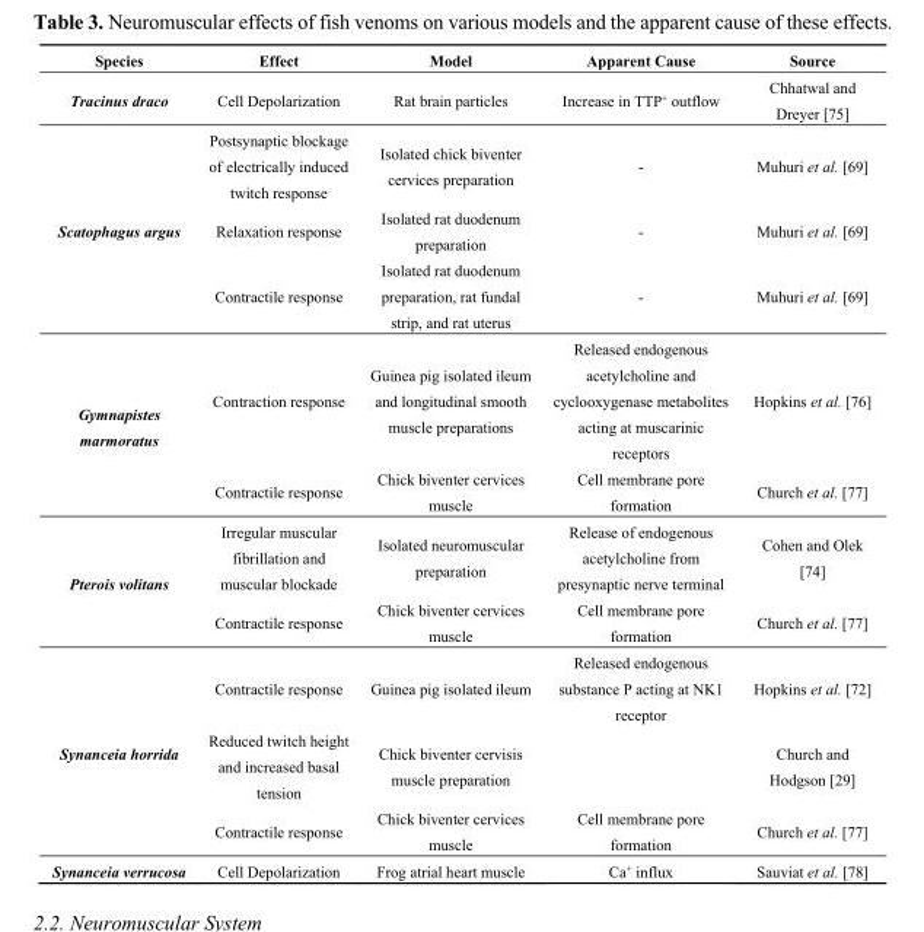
<table><thead><tr><td>Species</td><td>Effect</td><td>Model</td><td>Apparent Cause</td><td>Source</td></tr></thead><tbody><tr><td>Tracinus draco</td><td>Cell Depolarization</td><td>Rat brain particles</td><td>Increase in TTP<sup>+</sup> outflow</td><td>Chhatwal and Dreyer [75]</td></tr><tr><td rowspan="3">Scatophagus argus</td><td>Postsynaptic blockage of electrically induced twitch response</td><td>Isolated chick biventer cervices preparation</td><td>-</td><td>Muhuri et al. [69]</td></tr><tr><td>Relaxation response</td><td>Isolated rat duodenum preparation</td><td>-</td><td>Muhuri et al. [69]</td></tr><tr><td>Contractile response</td><td>Isolated rat duodenum preparation, rat fundal strip, and rat uterus</td><td>-</td><td>Muhuri et al. [69]</td></tr><tr><td rowspan="2">Gymnapistes marmoratus</td><td>Contraction response</td><td>Guinea pig isolated ileum and longitudinal smooth muscle preparations</td><td>Released endogenous acetylcholine and cyclooxygenase metabolites acting at muscarinic receptors</td><td>Hopkins et al. [76]</td></tr><tr><td>Contractile response</td><td>Chick biventer cervices muscle</td><td>Cell membrane pore formation</td><td>Church et al. [77]</td></tr><tr><td rowspan="2">Pterois volitans</td><td>Irregular muscular fibrillation and muscular blockade</td><td>Isolated neuromuscular preparation</td><td>Release of endogenous acetylcholine from presynaptic nerve terminal</td><td>Cohen and Olek [74]</td></tr><tr><td>Contractile response</td><td>Chick biventer cervices muscle</td><td>Cell membrane pore formation</td><td>Church et al. [77]</td></tr><tr><td rowspan="3">Synanceia horrida</td><td>Contractile response</td><td>Guinea pig isolated ileum</td><td>Released endogenous substance P acting at NK1 receptor</td><td>Hopkins et al. [72]</td></tr><tr><td>Reduced twitch height and increased basal tension</td><td>Chick biventer cervisis muscle preparation</td><td></td><td>Church and Hodgson [29]</td></tr><tr><td>Contractile response</td><td>Chick biventer cervices muscle</td><td>Cell membrane pore formation</td><td>Church et al. [77]</td></tr><tr><td>Synanceia verrucosa</td><td>Cell Depolarization</td><td>Frog atrial heart muscle</td><td>Ca<sup>+</sup> influx</td><td>Sauviat et al. [78]</td></tr></tbody></table>